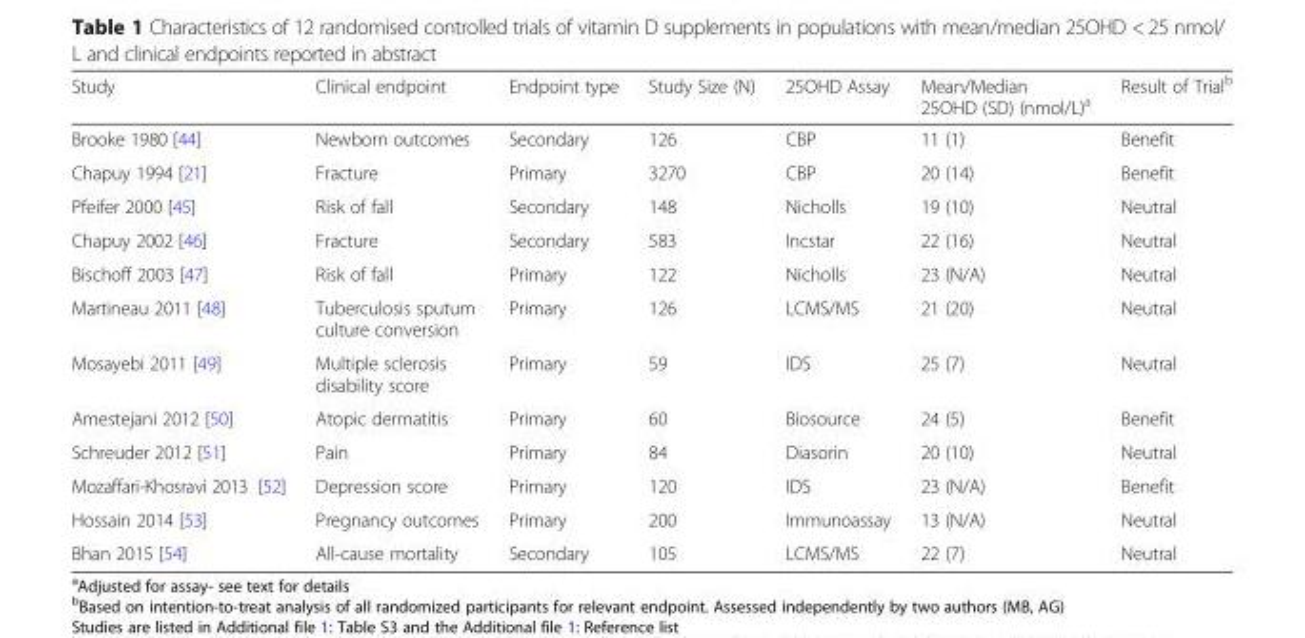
<table><thead><tr><td>Study</td><td>Clinical endpoint</td><td>Endpoint type</td><td>Study Size (N)</td><td>25OHD Assay</td><td>Mean/Median 25OHD (SD) (nmol/L)<sup>a</sup></td><td>Result of Trial<sup>b</sup></td></tr></thead><tbody><tr><td>Brooke 1980 [44]</td><td>Newborn outcomes</td><td>Secondary</td><td>126</td><td>CBP</td><td>11 (1)</td><td>Benefit</td></tr><tr><td>Chapuy 1994 [21]</td><td>Fracture</td><td>Primary</td><td>3270</td><td>CBP</td><td>20 (14)</td><td>Benefit</td></tr><tr><td>Pfeifer 2000 [45]</td><td>Risk of fall</td><td>Secondary</td><td>148</td><td>Nicholls</td><td>19 (10)</td><td>Neutral</td></tr><tr><td>Chapuy 2002 [46]</td><td>Fracture</td><td>Secondary</td><td>583</td><td>Incstar</td><td>22 (16)</td><td>Neutral</td></tr><tr><td>Bischoff 2003 [47]</td><td>Risk of fall</td><td>Primary</td><td>122</td><td>Nicholls</td><td>23 (N/A)</td><td>Neutral</td></tr><tr><td>Martineau 2011 [48]</td><td>Tuberculosis sputum culture conversion</td><td>Primary</td><td>126</td><td>LCMS/MS</td><td>21 (20)</td><td>Neutral</td></tr><tr><td>Mosayebi 2011 [49]</td><td>Multiple sclerosis disability score</td><td>Primary</td><td>59</td><td>IDS</td><td>25 (7)</td><td>Neutral</td></tr><tr><td>Amestejani 2012 [50]</td><td>Atopic dermatitis</td><td>Primary</td><td>60</td><td>Biosource</td><td>24 (5)</td><td>Benefit</td></tr><tr><td>Schreuder 2012 [51]</td><td>Pain</td><td>Primary</td><td>84</td><td>Diasorin</td><td>20 (10)</td><td>Neutral</td></tr><tr><td>Mozaffari-Khosravi 2013 [52]</td><td>Depression score</td><td>Primary</td><td>120</td><td>IDS</td><td>23 (N/A)</td><td>Benefit</td></tr><tr><td>Hossain 2014 [53]</td><td>Pregnancy outcomes</td><td>Primary</td><td>200</td><td>Immunoassay</td><td>13 (N/A)</td><td>Neutral</td></tr><tr><td>Bhan 2015 [54]</td><td>All-cause mortality</td><td>Secondary</td><td>105</td><td>LCMS/MS</td><td>22 (7)</td><td>Neutral</td></tr></tbody></table>